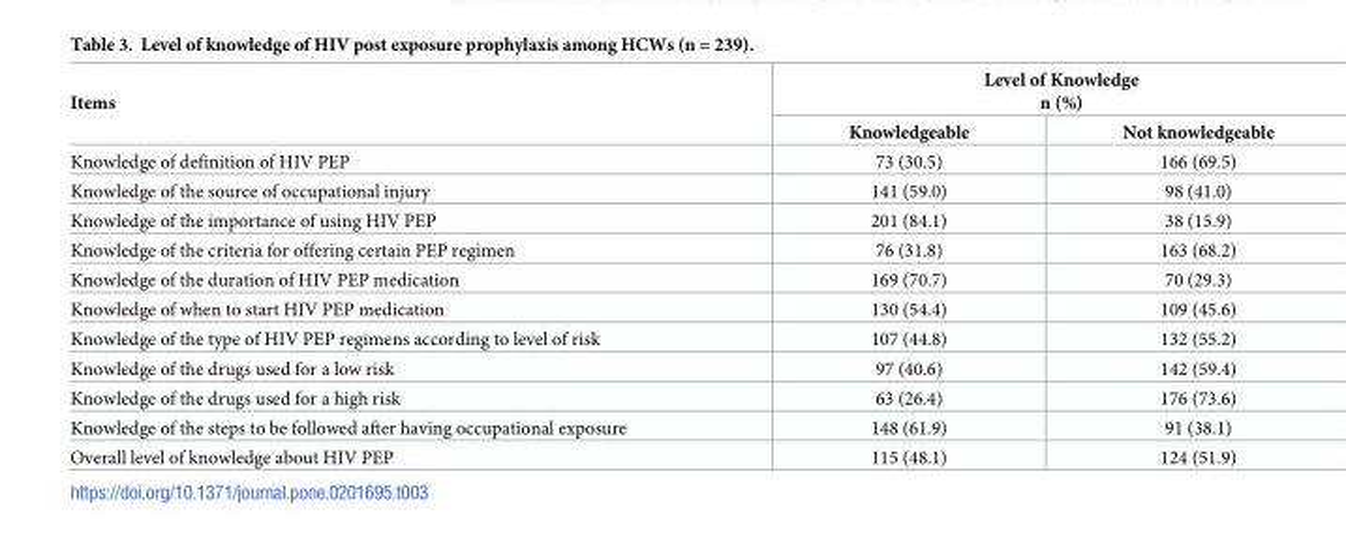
<table><thead><tr><td rowspan="2">Items</td><td colspan="2">Level of Knowledge n (%)</td></tr><tr><td>Knowledgeable</td><td>Not knowledgeable</td></tr></thead><tbody><tr><td>Knowledge of definition of HIV PEP</td><td>73 (30.5)</td><td>166 (69.5)</td></tr><tr><td>Knowledge of the source of occupational injury</td><td>141 (59.0)</td><td>98 (41.0)</td></tr><tr><td>Knowledge of the importance of using HIV PEP</td><td>201 (84.1)</td><td>38 (15.9)</td></tr><tr><td>Knowledge of the criteria for offering certain PEP regimen</td><td>76 (31.8)</td><td>163 (68.2)</td></tr><tr><td>Knowledge of the duration of HIV PEP medication</td><td>169 (70.7)</td><td>70 (29.3)</td></tr><tr><td>Knowledge of when to start HIV PEP medication</td><td>130 (54.4)</td><td>109 (45.6)</td></tr><tr><td>Knowledge of the type of HIV PEP regimens according to level of risk</td><td>107 (44.8)</td><td>132 (55.2)</td></tr><tr><td>Knowledge of the drugs used for a low risk</td><td>97 (40.6)</td><td>142 (59.4)</td></tr><tr><td>Knowledge of the drugs used for a high risk</td><td>63 (26.4)</td><td>176 (73.6)</td></tr><tr><td>Knowledge of the steps to be followed after having occupational exposure</td><td>148 (61.9)</td><td>91 (38.1)</td></tr><tr><td>Overall level of knowledge about HIV PEP</td><td>115 (48.1)</td><td>124 (51.9)</td></tr></tbody></table>